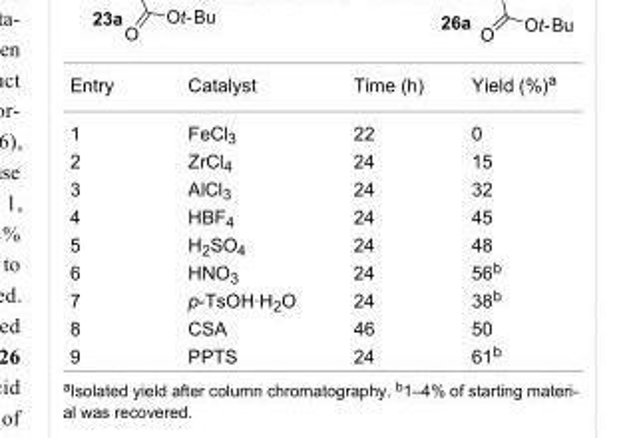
<table><tbody><tr><td>Entry</td><td>Catalyst</td><td>Time (h)</td><td>Yield (%)<sup>a</sup></td></tr><tr><td>1</td><td>FeCl<sub>3</sub></td><td>22</td><td>0</td></tr><tr><td>2</td><td>ZrCl<sub>4</sub></td><td>24</td><td>15</td></tr><tr><td>3</td><td>AlCl<sub>3</sub></td><td>24</td><td>32</td></tr><tr><td>4</td><td>HBF<sub>4</sub></td><td>24</td><td>45</td></tr><tr><td>5</td><td>H<sub>2</sub>SO<sub>4</sub></td><td>24</td><td>48</td></tr><tr><td>6</td><td>HNO<sub>3</sub></td><td>24</td><td>56<sup>b</sup></td></tr><tr><td>7</td><td>p-TsOH·H<sub>2</sub>O</td><td>24</td><td>38<sup>b</sup></td></tr><tr><td>8</td><td>CSA</td><td>46</td><td>50</td></tr><tr><td>9</td><td>PPTS</td><td>24</td><td>61<sup>b</sup></td></tr></tbody></table>